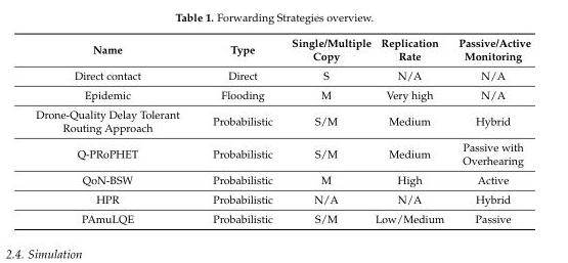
<table><thead><tr><td>Name</td><td>Type</td><td>Single/Multiple Copy</td><td>Replication Rate</td><td>Passive/Active Monitoring</td></tr></thead><tbody><tr><td>Direct contact</td><td>Direct</td><td>S</td><td>N/A</td><td>N/A</td></tr><tr><td>Epidemic</td><td>Flooding</td><td>M</td><td>Very high</td><td>N/A</td></tr><tr><td>Drone-Quality Delay Tolerant Routing Approach</td><td>Probabilistic</td><td>S/M</td><td>Medium</td><td>Hybrid</td></tr><tr><td>Q-PRoPHET</td><td>Probabilistic</td><td>S/M</td><td>Medium</td><td>Passive with Overhearing</td></tr><tr><td>QoN-BSW</td><td>Probabilistic</td><td>M</td><td>High</td><td>Active</td></tr><tr><td>HPR</td><td>Probabilistic</td><td>N/A</td><td>N/A</td><td>Hybrid</td></tr><tr><td>PAmuLQE</td><td>Probabilistic</td><td>S/M</td><td>Low/Medium</td><td>Passive</td></tr></tbody></table>